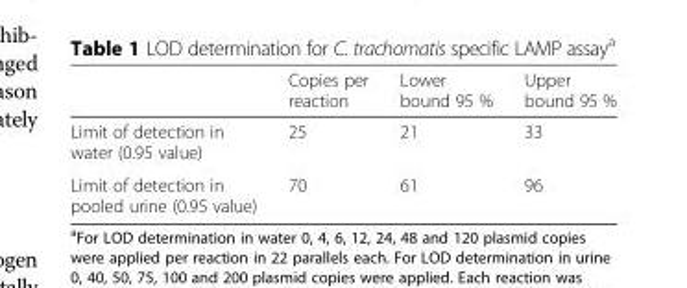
<table><thead><tr><td></td><td>Copies per reaction</td><td>Lower bound 95 %</td><td>Upper bound 95 %</td></tr></thead><tbody><tr><td>Limit of detection in water (0.95 value)</td><td>25</td><td>21</td><td>33</td></tr><tr><td>Limit of detection in pooled urine (0.95 value)</td><td>70</td><td>61</td><td>96</td></tr></tbody></table>